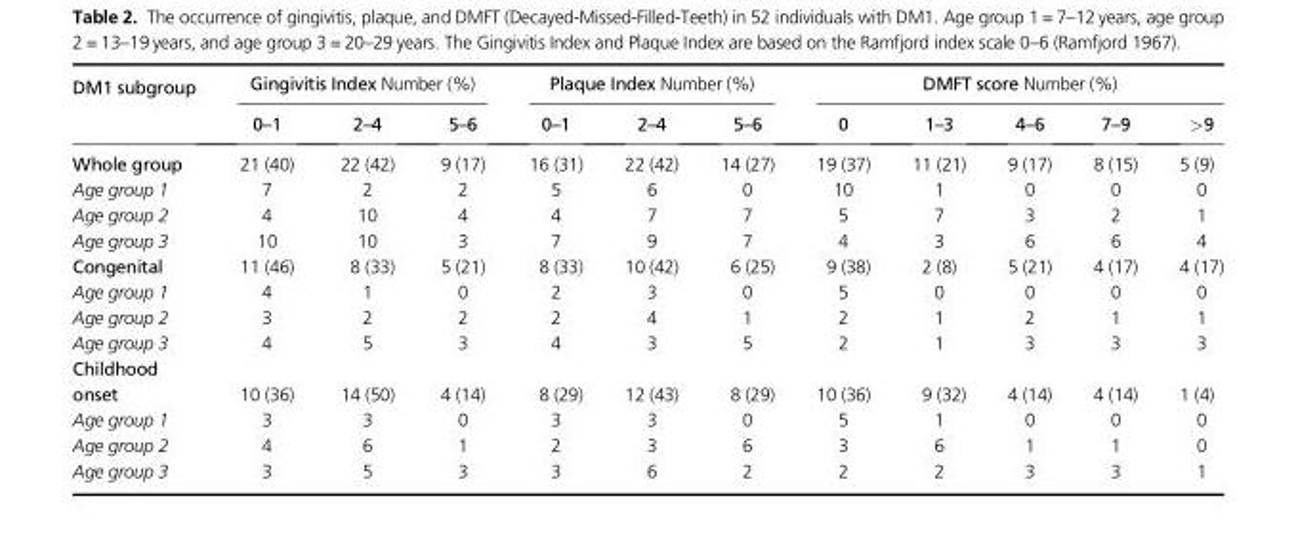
<table><thead><tr><td rowspan="2">DM1 subgroup</td><td colspan="3">Gingivitis Index Number (%)</td><td colspan="3">Plaque Index Number (%)</td><td colspan="5">DMFT score Number (%)</td></tr><tr><td>0–1</td><td>2–4</td><td>5–6</td><td>0–1</td><td>2–4</td><td>5–6</td><td>0</td><td>1–3</td><td>4–6</td><td>7–9</td><td>&gt;9</td></tr></thead><tbody><tr><td>Whole group</td><td>21 (40)</td><td>22 (42)</td><td>9 (17)</td><td>16 (31)</td><td>22 (42)</td><td>14 (27)</td><td>19 (37)</td><td>11 (21)</td><td>9 (17)</td><td>8 (15)</td><td>5 (9)</td></tr><tr><td>Age group 1</td><td>7</td><td>2</td><td>2</td><td>5</td><td>6</td><td>0</td><td>10</td><td>1</td><td>0</td><td>0</td><td>0</td></tr><tr><td>Age group 2</td><td>4</td><td>10</td><td>4</td><td>4</td><td>7</td><td>7</td><td>5</td><td>7</td><td>3</td><td>2</td><td>1</td></tr><tr><td>Age group 3</td><td>10</td><td>10</td><td>3</td><td>7</td><td>9</td><td>7</td><td>4</td><td>3</td><td>6</td><td>6</td><td>4</td></tr><tr><td>Congenital</td><td>11 (46)</td><td>8 (33)</td><td>5 (21)</td><td>8 (33)</td><td>10 (42)</td><td>6 (25)</td><td>9 (38)</td><td>2 (8)</td><td>5 (21)</td><td>4 (17)</td><td>4 (17)</td></tr><tr><td>Age group 1</td><td>4</td><td>1</td><td>0</td><td>2</td><td>3</td><td>0</td><td>5</td><td>0</td><td>0</td><td>0</td><td>0</td></tr><tr><td>Age group 2</td><td>3</td><td>2</td><td>2</td><td>2</td><td>4</td><td>1</td><td>2</td><td>1</td><td>2</td><td>1</td><td>1</td></tr><tr><td>Age group 3</td><td>4</td><td>5</td><td>3</td><td>4</td><td>3</td><td>5</td><td>2</td><td>1</td><td>3</td><td>3</td><td>3</td></tr><tr><td colspan="12">Childhood</td></tr><tr><td>onset</td><td>10 (36)</td><td>14 (50)</td><td>4 (14)</td><td>8 (29)</td><td>12 (43)</td><td>8 (29)</td><td>10 (36)</td><td>9 (32)</td><td>4 (14)</td><td>4 (14)</td><td>1 (4)</td></tr><tr><td>Age group 1</td><td>3</td><td>3</td><td>0</td><td>3</td><td>3</td><td>0</td><td>5</td><td>1</td><td>0</td><td>0</td><td>0</td></tr><tr><td>Age group 2</td><td>4</td><td>6</td><td>1</td><td>2</td><td>3</td><td>6</td><td>3</td><td>6</td><td>1</td><td>1</td><td>0</td></tr><tr><td>Age group 3</td><td>3</td><td>5</td><td>3</td><td>3</td><td>6</td><td>2</td><td>2</td><td>2</td><td>3</td><td>3</td><td>1</td></tr></tbody></table>